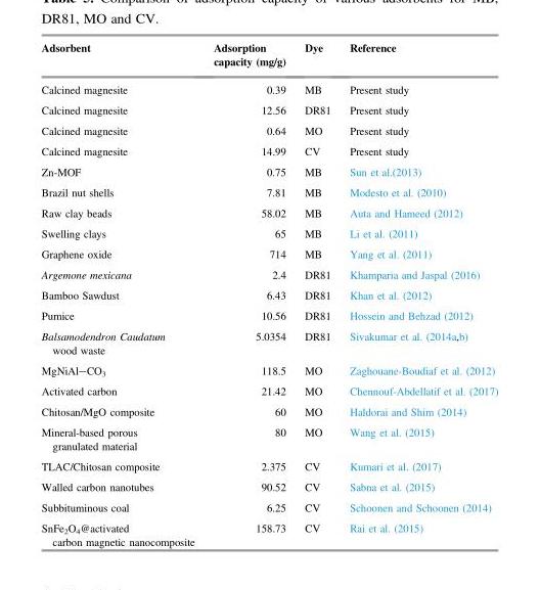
<table><thead><tr><td>Adsorbent</td><td>Adsorption capacity (mg/g)</td><td>Dye</td><td>Reference</td></tr></thead><tbody><tr><td>Calcined magnesite</td><td>0.39</td><td>MB</td><td>Present study</td></tr><tr><td>Calcined magnesite</td><td>12.56</td><td>DR81</td><td>Present study</td></tr><tr><td>Calcined magnesite</td><td>0.64</td><td>MO</td><td>Present study</td></tr><tr><td>Calcined magnesite</td><td>14.99</td><td>CV</td><td>Present study</td></tr><tr><td>Zn-MOF</td><td>0.75</td><td>MB</td><td>Sun et al.(2013)</td></tr><tr><td>Brazil nut shells</td><td>7.81</td><td>MB</td><td>Modesto et al. (2010)</td></tr><tr><td>Raw clay beads</td><td>58.02</td><td>MB</td><td>Auta and Hameed (2012)</td></tr><tr><td>Swelling clays</td><td>65</td><td>MB</td><td>Li et al. (2011)</td></tr><tr><td>Graphene oxide</td><td>714</td><td>MB</td><td>Yang et al. (2011)</td></tr><tr><td>Argemone mexicana</td><td>2.4</td><td>DR81</td><td>Khamparia and Jaspal (2016)</td></tr><tr><td>Bamboo Sawdust</td><td>6.43</td><td>DR81</td><td>Khan et al. (2012)</td></tr><tr><td>Pumice</td><td>10.56</td><td>DR81</td><td>Hossein and Behzad (2012)</td></tr><tr><td>Balsamodendron Caudatum wood waste</td><td>5.0354</td><td>DR81</td><td>Sivakumar et al. (2014a,b)</td></tr><tr><td>MgNiAl–CO<sub>3</sub></td><td>118.5</td><td>MO</td><td>Zaghouane-Boudiaf et al. (2012)</td></tr><tr><td>Activated carbon</td><td>21.42</td><td>MO</td><td>Chennouf-Abdellatif et al. (2017)</td></tr><tr><td>Chitosan/MgO composite</td><td>60</td><td>MO</td><td>Haldorai and Shim (2014)</td></tr><tr><td>Mineral-based porous granulated material</td><td>80</td><td>MO</td><td>Wang et al. (2015)</td></tr><tr><td>TLAC/Chitosan composite</td><td>2.375</td><td>CV</td><td>Kumari et al. (2017)</td></tr><tr><td>Walled carbon nanotubes</td><td>90.52</td><td>CV</td><td>Sabna et al. (2015)</td></tr><tr><td>Subbituminous coal</td><td>6.25</td><td>CV</td><td>Schoonen and Schoonen (2014)</td></tr><tr><td>SnFe<sub>2</sub>O<sub>4</sub>@activated carbon magnetic nanocomposite</td><td>158.73</td><td>CV</td><td>Rai et al. (2015)</td></tr></tbody></table>